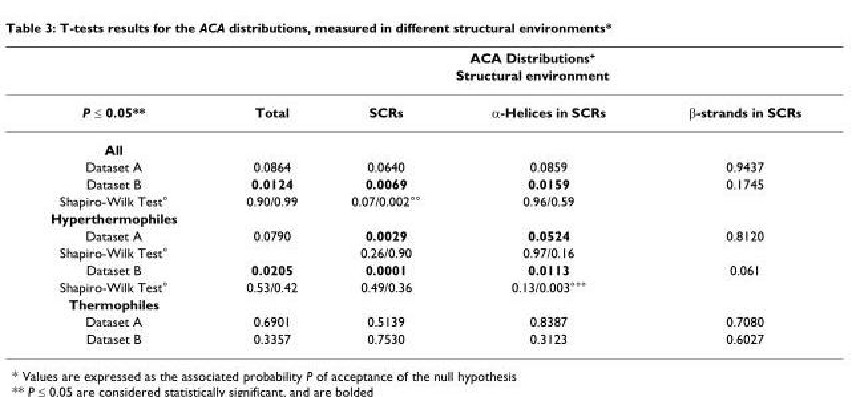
<table><thead><tr><td rowspan="3">P ≤ 0.05**</td><td rowspan="2" colspan="4">ACA Distributions+ Structural environment</td></tr><tr></tr><tr><td>Total</td><td>SCRs</td><td>α-Helices in SCRs</td><td>β-strands in SCRs</td></tr></thead><tbody><tr><td colspan="5">All</td></tr><tr><td>Dataset A</td><td>0.0864</td><td>0.0640</td><td>0.0859</td><td>0.9437</td></tr><tr><td>Dataset B</td><td>0.0124</td><td>0.0069</td><td>0.0159</td><td>0.1745</td></tr><tr><td>Shapiro-Wilk Test°</td><td>0.90/0.99</td><td>0.07/0.002°°</td><td>0.96/0.59</td><td></td></tr><tr><td colspan="5">Hyperthermophiles</td></tr><tr><td>Dataset A</td><td>0.0790</td><td>0.0029</td><td>0.0524</td><td>0.8120</td></tr><tr><td>Shapiro-Wilk Test°</td><td></td><td>0.26/0.90</td><td>0.97/0.16</td><td></td></tr><tr><td>Dataset B</td><td>0.0205</td><td>0.0001</td><td>0.0113</td><td>0.061</td></tr><tr><td>Shapiro-Wilk Test°</td><td>0.53/0.42</td><td>0.49/0.36</td><td>0.13/0.003°°°</td><td></td></tr><tr><td colspan="5">Thermophiles</td></tr><tr><td>Dataset A</td><td>0.6901</td><td>0.5139</td><td>0.8387</td><td>0.7080</td></tr><tr><td>Dataset B</td><td>0.3357</td><td>0.7530</td><td>0.3123</td><td>0.6027</td></tr></tbody></table>